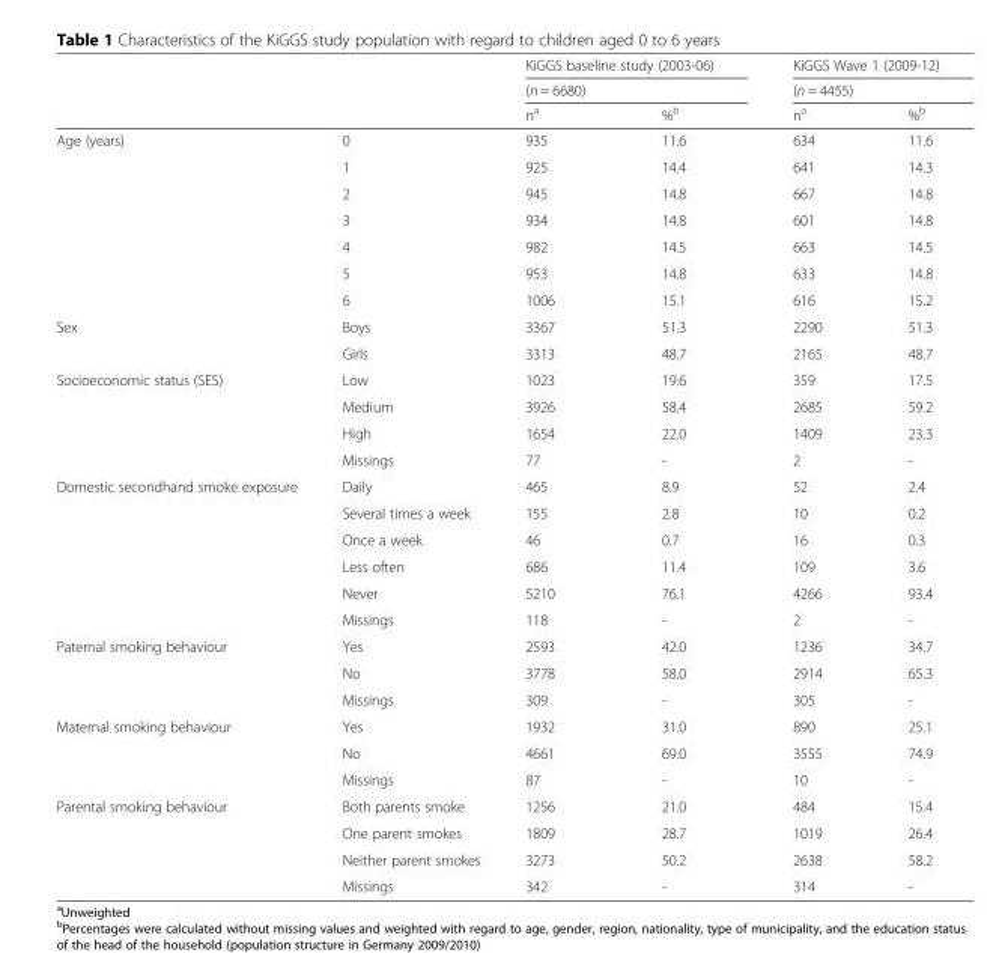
<table><thead><tr><td rowspan="3"></td><td rowspan="3"></td><td rowspan="2" colspan="2">KiGGS baseline study (2003-06) (n = 6680)</td><td rowspan="2" colspan="2">KiGGS Wave 1 (2009-12) (n = 4455)</td></tr><tr></tr><tr><td>n<sup>a</sup></td><td>%<sup>b</sup></td><td>n<sup>a</sup></td><td>%<sup>b</sup></td></tr></thead><tbody><tr><td rowspan="7">Age (years)</td><td>0</td><td>935</td><td>11.6</td><td>634</td><td>11.6</td></tr><tr><td>1</td><td>925</td><td>14.4</td><td>641</td><td>14.3</td></tr><tr><td>2</td><td>945</td><td>14.8</td><td>667</td><td>14.8</td></tr><tr><td>3</td><td>934</td><td>14.8</td><td>601</td><td>14.8</td></tr><tr><td>4</td><td>982</td><td>14.5</td><td>663</td><td>14.5</td></tr><tr><td>5</td><td>953</td><td>14.8</td><td>633</td><td>14.8</td></tr><tr><td>6</td><td>1006</td><td>15.1</td><td>616</td><td>15.2</td></tr><tr><td rowspan="2">Sex</td><td>Boys</td><td>3367</td><td>51.3</td><td>2290</td><td>51.3</td></tr><tr><td>Girls</td><td>3313</td><td>48.7</td><td>2165</td><td>48.7</td></tr><tr><td rowspan="4">Socioeconomic status (SES)</td><td>Low</td><td>1023</td><td>19.6</td><td>359</td><td>17.5</td></tr><tr><td>Medium</td><td>3926</td><td>58.4</td><td>2685</td><td>59.2</td></tr><tr><td>High</td><td>1654</td><td>22.0</td><td>1409</td><td>23.3</td></tr><tr><td>Missings</td><td>77</td><td>-</td><td>2</td><td>-</td></tr><tr><td rowspan="6">Domestic secondhand smoke exposure</td><td>Daily</td><td>465</td><td>8.9</td><td>52</td><td>2.4</td></tr><tr><td>Several times a week</td><td>155</td><td>2.8</td><td>10</td><td>0.2</td></tr><tr><td>Once a week</td><td>46</td><td>0.7</td><td>16</td><td>0.3</td></tr><tr><td>Less often</td><td>686</td><td>11.4</td><td>109</td><td>3.6</td></tr><tr><td>Never</td><td>5210</td><td>76.1</td><td>4266</td><td>93.4</td></tr><tr><td>Missings</td><td>118</td><td>-</td><td>2</td><td>-</td></tr><tr><td rowspan="3">Paternal smoking behaviour</td><td>Yes</td><td>2593</td><td>42.0</td><td>1236</td><td>34.7</td></tr><tr><td>No</td><td>3778</td><td>58.0</td><td>2914</td><td>65.3</td></tr><tr><td>Missings</td><td>309</td><td>-</td><td>305</td><td>-</td></tr><tr><td rowspan="3">Maternal smoking behaviour</td><td>Yes</td><td>1932</td><td>31.0</td><td>890</td><td>25.1</td></tr><tr><td>No</td><td>4661</td><td>69.0</td><td>3555</td><td>74.9</td></tr><tr><td>Missings</td><td>87</td><td>-</td><td>10</td><td>-</td></tr><tr><td rowspan="4">Parental smoking behaviour</td><td>Both parents smoke</td><td>1256</td><td>21.0</td><td>484</td><td>15.4</td></tr><tr><td>One parent smokes</td><td>1809</td><td>28.7</td><td>1019</td><td>26.4</td></tr><tr><td>Neither parent smokes</td><td>3273</td><td>50.2</td><td>2638</td><td>58.2</td></tr><tr><td>Missings</td><td>342</td><td>-</td><td>314</td><td>-</td></tr></tbody></table>